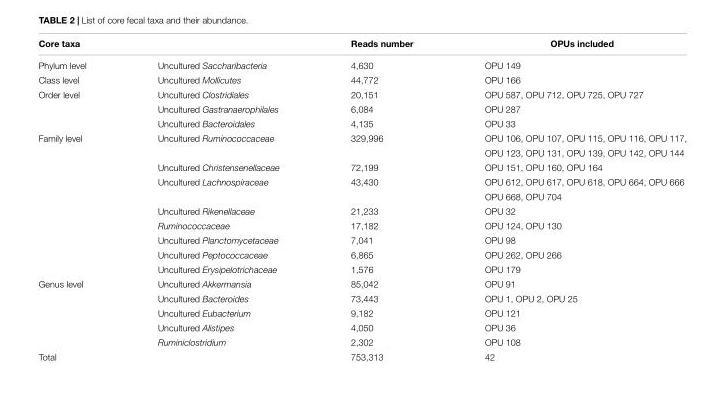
<table><thead><tr><td colspan="2">Core taxa</td><td rowspan="2">Reads number 4,630</td><td rowspan="2">OPUs included OPU 149</td></tr><tr><td>Phylum level</td><td>Uncultured Saccharibacteria</td></tr></thead><tbody><tr><td>Class level</td><td>Uncultured Mollicutes</td><td>44,772</td><td>OPU 166</td></tr><tr><td rowspan="3">Order level</td><td>Uncultured Clostridiales</td><td>20,151</td><td>OPU 587, OPU 712, OPU 725, OPU 727</td></tr><tr><td>Uncultured Gastranaerophilales</td><td>6,084</td><td>OPU 287</td></tr><tr><td>Uncultured Bacteroidales</td><td>4,135</td><td>OPU 33</td></tr><tr><td rowspan="10">Family level</td><td>Uncultured Ruminococcaceae</td><td>329,996</td><td>OPU 106, OPU 107, OPU 115, OPU 116, OPU 117,</td></tr><tr><td></td><td></td><td>OPU 123, OPU 131, OPU 139, OPU 142, OPU 144</td></tr><tr><td>Uncultured Christensenellaceae</td><td>72,199</td><td>OPU 151, OPU 160, OPU 164</td></tr><tr><td>Uncultured Lachnospiraceae</td><td>43,430</td><td>OPU 612, OPU 617, OPU 618, OPU 664, OPU 666</td></tr><tr><td></td><td></td><td>OPU 668, OPU 704</td></tr><tr><td>Uncultured Rikenellaceae</td><td>21,233</td><td>OPU 32</td></tr><tr><td>Ruminococcaceae</td><td>17,182</td><td>OPU 124, OPU 130</td></tr><tr><td>Uncultured Planctomycetaceae</td><td>7,041</td><td>OPU 98</td></tr><tr><td>Uncultured Peptococcaceae</td><td>6,865</td><td>OPU 262, OPU 266</td></tr><tr><td>Uncultured Erysipelotrichaceae</td><td>1,576</td><td>OPU 179</td></tr><tr><td rowspan="5">Genus level</td><td>Uncultured Akkermansia</td><td>85,042</td><td>OPU 91</td></tr><tr><td>Uncultured Bacteroides</td><td>73,443</td><td>OPU 1, OPU 2, OPU 25</td></tr><tr><td>Uncultured Eubacterium</td><td>9,182</td><td>OPU 121</td></tr><tr><td>Uncultured Alistipes</td><td>4,050</td><td>OPU 36</td></tr><tr><td>Ruminiclostridium</td><td>2,302</td><td>OPU 108</td></tr><tr><td>Total</td><td></td><td>753,313</td><td>42</td></tr></tbody></table>